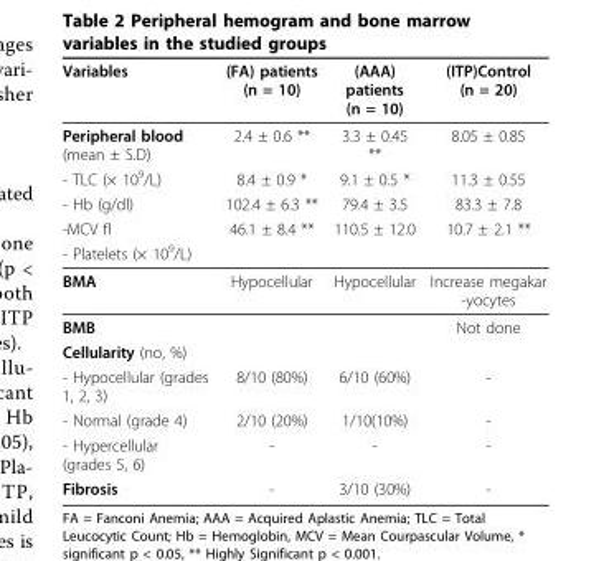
<table><thead><tr><td>Variables</td><td>(FA) patients (n = 10)</td><td>(AAA) patients (n = 10)</td><td>(ITP)Control (n = 20)</td></tr></thead><tbody><tr><td>Peripheral blood (mean ± S.D)</td><td>2.4 ± 0.6 **</td><td>3.3 ± 0.45 **</td><td>8.05 ± 0.85</td></tr><tr><td>- TLC (× 10<sup>9</sup>/L)</td><td>8.4 ± 0.9 *</td><td>9.1 ± 0.5 *</td><td>11.3 ± 0.55</td></tr><tr><td>- Hb (g/dl)</td><td>102.4 ± 6.3 **</td><td>79.4 ± 3.5</td><td>83.3 ± 7.8</td></tr><tr><td>-MCV fl</td><td>46.1 ± 8.4 **</td><td>110.5 ± 12.0</td><td>10.7 ± 2.1 **</td></tr><tr><td colspan="4">- Platelets (× 10<sup>9</sup>/L)</td></tr><tr><td>BMA</td><td>Hypocellular</td><td>Hypocellular</td><td>Increase megakar -yocytes</td></tr><tr><td>BMB</td><td></td><td></td><td>Not done</td></tr><tr><td colspan="4">Cellularity (no, %)</td></tr><tr><td>- Hypocellular (grades 1, 2, 3)</td><td>8/10 (80%)</td><td>6/10 (60%)</td><td>-</td></tr><tr><td>- Normal (grade 4)</td><td>2/10 (20%)</td><td>1/10(10%)</td><td>-</td></tr><tr><td>- Hypercellular (grades 5, 6)</td><td>-</td><td>-</td><td>-</td></tr><tr><td>Fibrosis</td><td>-</td><td>3/10 (30%)</td><td>-</td></tr></tbody></table>